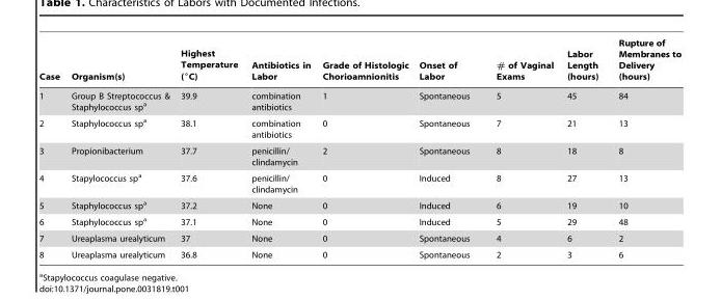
<table><thead><tr><td>Case</td><td>Organism(s)</td><td>Highest Temperature (°C)</td><td>Antibiotics in Labor</td><td>Grade of Histologic Chorioamnionitis</td><td>Onset of Labor</td><td># of Vaginal Exams</td><td>Labor Length (hours)</td><td>Rupture of Membranes to Delivery (hours)</td></tr></thead><tbody><tr><td>1</td><td>Group B Streptococcus &amp; Staphylococcus sp<sup>a</sup></td><td>39.9</td><td>combination antibiotics</td><td>1</td><td>Spontaneous</td><td>5</td><td>45</td><td>84</td></tr><tr><td>2</td><td>Staphylococcus sp<sup>a</sup></td><td>38.1</td><td>combination antibiotics</td><td>0</td><td>Spontaneous</td><td>7</td><td>21</td><td>13</td></tr><tr><td>3</td><td>Propionibacterium</td><td>37.7</td><td>penicillin/ clindamycin</td><td>2</td><td>Spontaneous</td><td>8</td><td>18</td><td>8</td></tr><tr><td>4</td><td>Stapylococcus sp<sup>a</sup></td><td>37.6</td><td>penicillin/ clindamycin</td><td>0</td><td>Induced</td><td>8</td><td>27</td><td>13</td></tr><tr><td>5</td><td>Staphylococcus sp<sup>a</sup></td><td>37.2</td><td>None</td><td>0</td><td>Induced</td><td>6</td><td>19</td><td>10</td></tr><tr><td>6</td><td>Staphylococcus sp<sup>a</sup></td><td>37.1</td><td>None</td><td>0</td><td>Induced</td><td>5</td><td>29</td><td>48</td></tr><tr><td>7</td><td>Ureaplasma urealyticum</td><td>37</td><td>None</td><td>0</td><td>Spontaneous</td><td>4</td><td>6</td><td>2</td></tr><tr><td>8</td><td>Ureaplasma urealyticum</td><td>36.8</td><td>None</td><td>0</td><td>Spontaneous</td><td>2</td><td>3</td><td>6</td></tr></tbody></table>